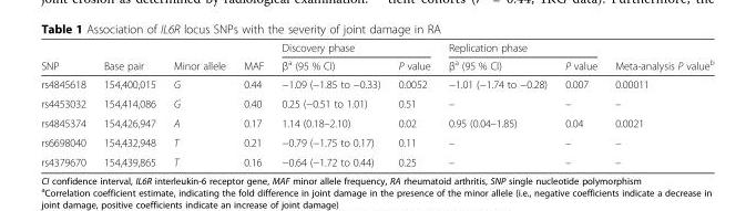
<table><thead><tr><td rowspan="2">SNP</td><td rowspan="2">Base pair</td><td rowspan="2">Minor allele</td><td rowspan="2">MAF</td><td colspan="2">Discovery phase</td><td colspan="2">Replication phase</td><td rowspan="2">Meta-analysis P value<sup>b</sup></td></tr><tr><td>β<sup>a</sup> (95 % CI)</td><td>P value</td><td>β<sup>a</sup> (95 % CI)</td><td>P value</td></tr></thead><tbody><tr><td>rs4845618</td><td>154,400,015</td><td>G</td><td>0.44</td><td>−1.09 (−1.85 to −0.33)</td><td>0.0052</td><td>−1.01 (−1.74 to −0.28)</td><td>0.007</td><td>0.00011</td></tr><tr><td>rs4453032</td><td>154,414,086</td><td>G</td><td>0.40</td><td>0.25 (−0.51 to 1.01)</td><td>0.51</td><td>–</td><td>–</td><td>–</td></tr><tr><td>rs4845374</td><td>154,426,947</td><td>A</td><td>0.17</td><td>1.14 (0.18–2.10)</td><td>0.02</td><td>0.95 (0.04–1.85)</td><td>0.04</td><td>0.0021</td></tr><tr><td>rs6698040</td><td>154,432,948</td><td>T</td><td>0.21</td><td>−0.79 (−1.75 to 0.17)</td><td>0.11</td><td>–</td><td>–</td><td>–</td></tr><tr><td>rs4379670</td><td>154,439,865</td><td>T</td><td>0.16</td><td>−0.64 (−1.72 to 0.44)</td><td>0.25</td><td>–</td><td>–</td><td>–</td></tr></tbody></table>